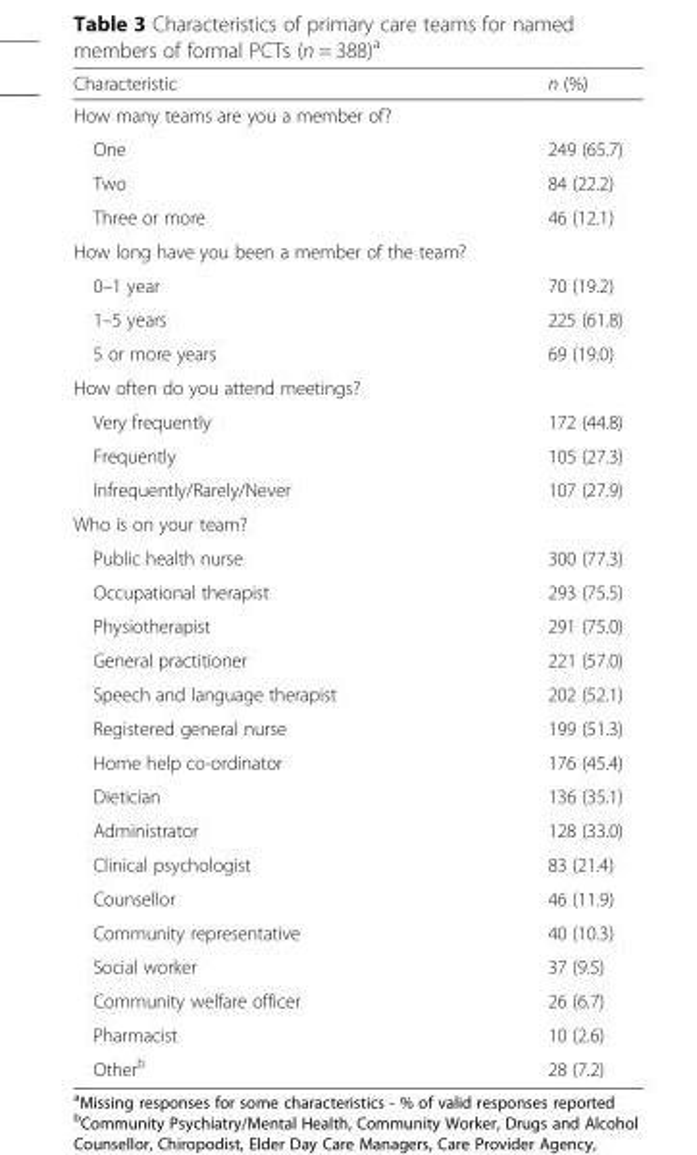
<table><thead><tr><td>Characteristic</td><td>n (%)</td></tr></thead><tbody><tr><td colspan="2">How many teams are you a member of?</td></tr><tr><td>One</td><td>249 (65.7)</td></tr><tr><td>Two</td><td>84 (22.2)</td></tr><tr><td>Three or more</td><td>46 (12.1)</td></tr><tr><td colspan="2">How long have you been a member of the team?</td></tr><tr><td>0–1 year</td><td>70 (19.2)</td></tr><tr><td>1–5 years</td><td>225 (61.8)</td></tr><tr><td>5 or more years</td><td>69 (19.0)</td></tr><tr><td colspan="2">How often do you attend meetings?</td></tr><tr><td>Very frequently</td><td>172 (44.8)</td></tr><tr><td>Frequently</td><td>105 (27.3)</td></tr><tr><td>Infrequently/Rarely/Never</td><td>107 (27.9)</td></tr><tr><td colspan="2">Who is on your team?</td></tr><tr><td>Public health nurse</td><td>300 (77.3)</td></tr><tr><td>Occupational therapist</td><td>293 (75.5)</td></tr><tr><td>Physiotherapist</td><td>291 (75.0)</td></tr><tr><td>General practitioner</td><td>221 (57.0)</td></tr><tr><td>Speech and language therapist</td><td>202 (52.1)</td></tr><tr><td>Registered general nurse</td><td>199 (51.3)</td></tr><tr><td>Home help co-ordinator</td><td>176 (45.4)</td></tr><tr><td>Dietician</td><td>136 (35.1)</td></tr><tr><td>Administrator</td><td>128 (33.0)</td></tr><tr><td>Clinical psychologist</td><td>83 (21.4)</td></tr><tr><td>Counsellor</td><td>46 (11.9)</td></tr><tr><td>Community representative</td><td>40 (10.3)</td></tr><tr><td>Social worker</td><td>37 (9.5)</td></tr><tr><td>Community welfare officer</td><td>26 (6.7)</td></tr><tr><td>Pharmacist</td><td>10 (2.6)</td></tr><tr><td>Other<sup>b</sup></td><td>28 (7.2)</td></tr></tbody></table>